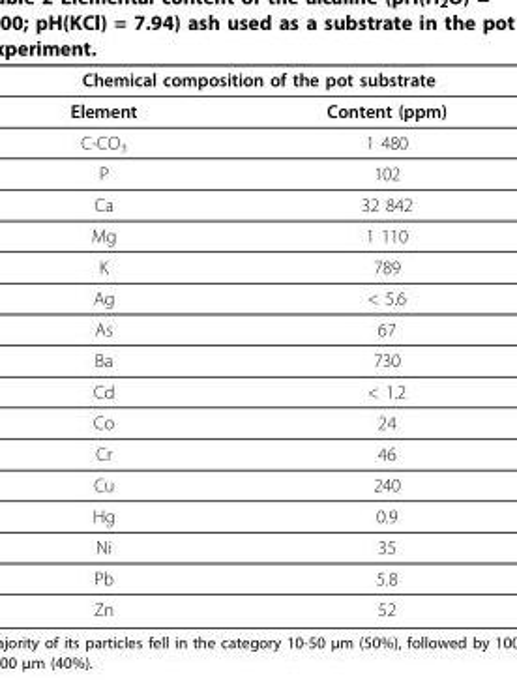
<table><thead><tr><td colspan="2">Chemical composition of the pot substrate</td></tr><tr><td>Element</td><td>Content (ppm)</td></tr></thead><tbody><tr><td>C-CO<sub>3</sub></td><td>1 480</td></tr><tr><td>P</td><td>102</td></tr><tr><td>Ca</td><td>32 842</td></tr><tr><td>Mg</td><td>1 110</td></tr><tr><td>K</td><td>789</td></tr><tr><td>Ag</td><td>&lt; 5.6</td></tr><tr><td>As</td><td>67</td></tr><tr><td>Ba</td><td>730</td></tr><tr><td>Cd</td><td>&lt; 1.2</td></tr><tr><td>Co</td><td>24</td></tr><tr><td>Cr</td><td>46</td></tr><tr><td>Cu</td><td>240</td></tr><tr><td>Hg</td><td>0.9</td></tr><tr><td>Ni</td><td>35</td></tr><tr><td>Pb</td><td>5.8</td></tr><tr><td>Zn</td><td>52</td></tr></tbody></table>